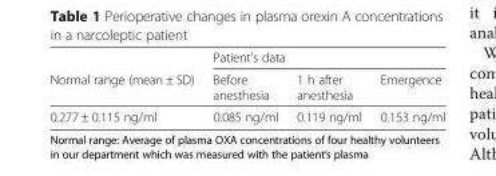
<table><thead><tr><td rowspan="2">Normal range (mean ± SD)</td><td colspan="3">Patient’s data</td></tr><tr><td>Before anesthesia</td><td>1 h after anesthesia</td><td>Emergence</td></tr></thead><tbody><tr><td>0.277 ± 0.115 ng/ml</td><td>0.085 ng/ml</td><td>0.119 ng/ml</td><td>0.153 ng/ml</td></tr></tbody></table>